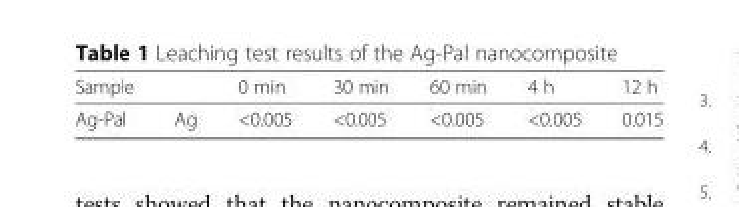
<table><thead><tr><td>Sample</td><td></td><td>0 min</td><td>30 min</td><td>60 min</td><td>4 h</td><td>12 h</td></tr></thead><tbody><tr><td>Ag-Pal</td><td>Ag</td><td>&lt;0.005</td><td>&lt;0.005</td><td>&lt;0.005</td><td>&lt;0.005</td><td>0.015</td></tr></tbody></table>